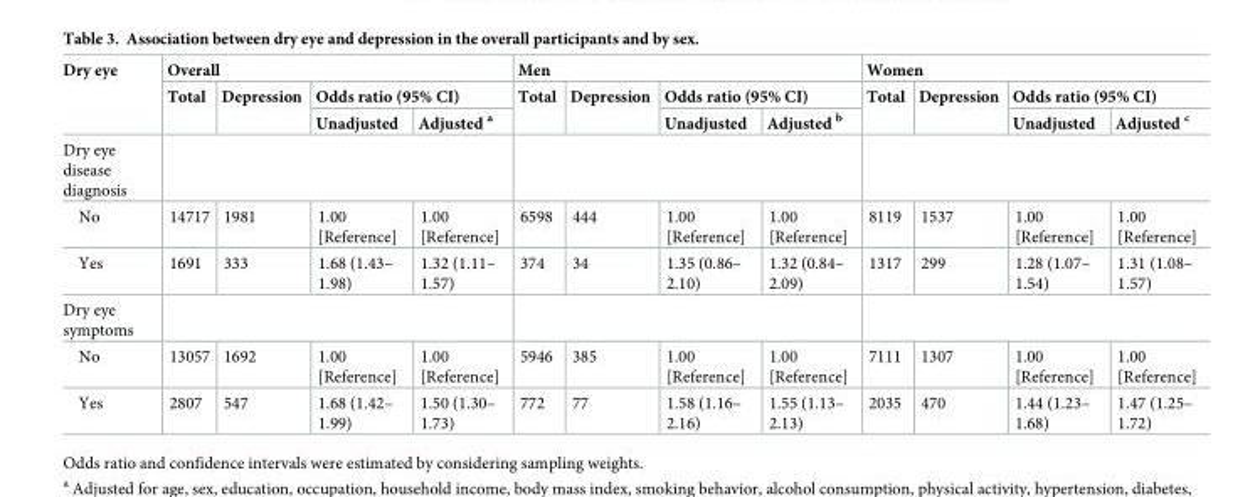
<table><thead><tr><td rowspan="3">Dry eye</td><td colspan="4">Overall</td><td colspan="4">Men</td><td colspan="4">Women</td></tr><tr><td rowspan="2">Total</td><td rowspan="2">Depression</td><td colspan="2">Odds ratio (95% CI)</td><td rowspan="2">Total</td><td rowspan="2">Depression</td><td colspan="2">Odds ratio (95% CI)</td><td rowspan="2">Total</td><td rowspan="2">Depression</td><td colspan="2">Odds ratio (95% CI)</td></tr><tr><td>Unadjusted</td><td>Adjusted <sup>a</sup></td><td>Unadjusted</td><td>Adjusted <sup>b</sup></td><td>Unadjusted</td><td>Adjusted <sup>c</sup></td></tr></thead><tbody><tr><td colspan="13">Dry eye disease diagnosis</td></tr><tr><td>No</td><td>14717</td><td>1981</td><td>1.00 [Reference]</td><td>1.00 [Reference]</td><td>6598</td><td>444</td><td>1.00 [Reference]</td><td>1.00 [Reference]</td><td>8119</td><td>1537</td><td>1.00 [Reference]</td><td>1.00 [Reference]</td></tr><tr><td>Yes</td><td>1691</td><td>333</td><td>1.68 (1.43– 1.98)</td><td>1.32 (1.11– 1.57)</td><td>374</td><td>34</td><td>1.35 (0.86– 2.10)</td><td>1.32 (0.84– 2.09)</td><td>1317</td><td>299</td><td>1.28 (1.07– 1.54)</td><td>1.31 (1.08– 1.57)</td></tr><tr><td colspan="13">Dry eye symptoms</td></tr><tr><td>No</td><td>13057</td><td>1692</td><td>1.00 [Reference]</td><td>1.00 [Reference]</td><td>5946</td><td>385</td><td>1.00 [Reference]</td><td>1.00 [Reference]</td><td>7111</td><td>1307</td><td>1.00 [Reference]</td><td>1.00 [Reference]</td></tr><tr><td>Yes</td><td>2807</td><td>547</td><td>1.68 (1.42– 1.99)</td><td>1.50 (1.30– 1.73)</td><td>772</td><td>77</td><td>1.58 (1.16– 2.16)</td><td>1.55 (1.13– 2.13)</td><td>2035</td><td>470</td><td>1.44 (1.23– 1.68)</td><td>1.47 (1.25– 1.72)</td></tr></tbody></table>